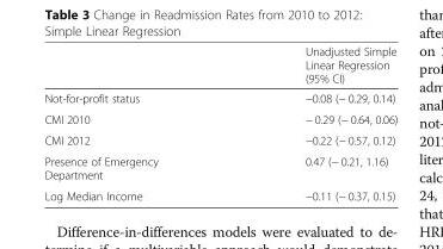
<table><thead><tr><td></td><td>Unadjusted Simple Linear Regression (95% CI)</td></tr></thead><tbody><tr><td>Not-for-profit status</td><td>−0.08 (− 0.29, 0.14)</td></tr><tr><td>CMI 2010</td><td>− 0.29 (− 0.64, 0.06)</td></tr><tr><td>CMI 2012</td><td>−0.22 (− 0.57, 0.12)</td></tr><tr><td>Presence of Emergency Department</td><td>0.47 (− 0.21, 1.16)</td></tr><tr><td>Log Median Income</td><td>−0.11 (− 0.37, 0.15)</td></tr></tbody></table>